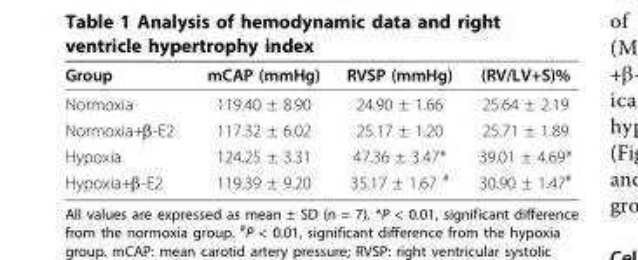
<table><thead><tr><td>Group</td><td>mCAP (mmHg)</td><td>RVSP (mmHg)</td><td>(RV/LV+S)%</td></tr></thead><tbody><tr><td>Normoxia</td><td>119.40 ± 8.90</td><td>24.90 ± 1.66</td><td>25.64 ± 2.19</td></tr><tr><td>Normoxia+β-E2</td><td>117.32 ± 6.02</td><td>25.17 ± 1.20</td><td>25.71 ± 1.89</td></tr><tr><td>Hypoxia</td><td>124.25 ± 3.31</td><td>47.36 ± 3.47*</td><td>39.01 ± 4.69*</td></tr><tr><td>Hypoxia+β-E2</td><td>119.39 ± 9.20</td><td>35.17 ± 1.67 <sup>#</sup></td><td>30.90 ± 1.47<sup>#</sup></td></tr></tbody></table>